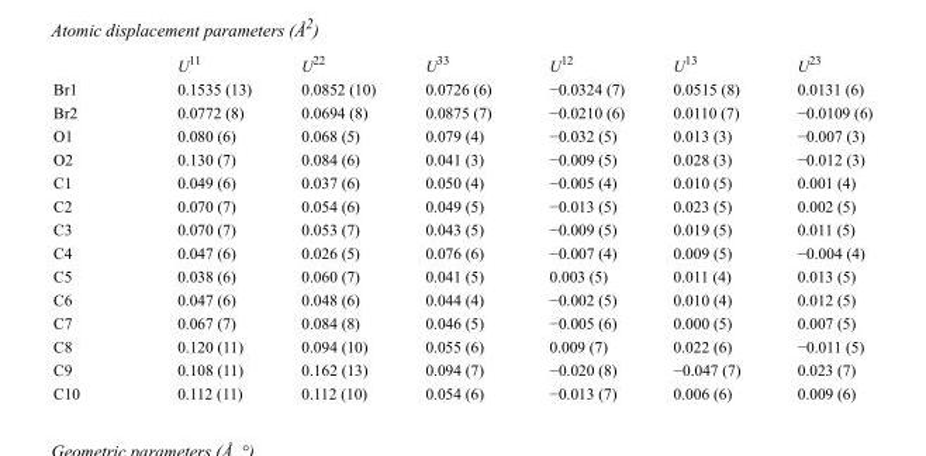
<table><thead><tr><td></td><td>U<sup>11</sup></td><td>U<sup>22</sup></td><td>U<sup>33</sup></td><td>U<sup>12</sup></td><td>U<sup>13</sup></td><td>U<sup>23</sup></td></tr></thead><tbody><tr><td>Br1</td><td>0.1535 (13)</td><td>0.0852 (10)</td><td>0.0726 (6)</td><td>−0.0324 (7)</td><td>0.0515 (8)</td><td>0.0131 (6)</td></tr><tr><td>Br2</td><td>0.0772 (8)</td><td>0.0694 (8)</td><td>0.0875 (7)</td><td>−0.0210 (6)</td><td>0.0110 (7)</td><td>−0.0109 (6)</td></tr><tr><td>O1</td><td>0.080 (6)</td><td>0.068 (5)</td><td>0.079 (4)</td><td>−0.032 (5)</td><td>0.013 (3)</td><td>−0.007 (3)</td></tr><tr><td>O2</td><td>0.130 (7)</td><td>0.084 (6)</td><td>0.041 (3)</td><td>−0.009 (5)</td><td>0.028 (3)</td><td>−0.012 (3)</td></tr><tr><td>C1</td><td>0.049 (6)</td><td>0.037 (6)</td><td>0.050 (4)</td><td>−0.005 (4)</td><td>0.010 (5)</td><td>0.001 (4)</td></tr><tr><td>C2</td><td>0.070 (7)</td><td>0.054 (6)</td><td>0.049 (5)</td><td>−0.013 (5)</td><td>0.023 (5)</td><td>0.002 (5)</td></tr><tr><td>C3</td><td>0.070 (7)</td><td>0.053 (7)</td><td>0.043 (5)</td><td>−0.009 (5)</td><td>0.019 (5)</td><td>0.011 (5)</td></tr><tr><td>C4</td><td>0.047 (6)</td><td>0.026 (5)</td><td>0.076 (6)</td><td>−0.007 (4)</td><td>0.009 (5)</td><td>−0.004 (4)</td></tr><tr><td>C5</td><td>0.038 (6)</td><td>0.060 (7)</td><td>0.041 (5)</td><td>0.003 (5)</td><td>0.011 (4)</td><td>0.013 (5)</td></tr><tr><td>C6</td><td>0.047 (6)</td><td>0.048 (6)</td><td>0.044 (4)</td><td>−0.002 (5)</td><td>0.010 (4)</td><td>0.012 (5)</td></tr><tr><td>C7</td><td>0.067 (7)</td><td>0.084 (8)</td><td>0.046 (5)</td><td>−0.005 (6)</td><td>0.000 (5)</td><td>0.007 (5)</td></tr><tr><td>C8</td><td>0.120 (11)</td><td>0.094 (10)</td><td>0.055 (6)</td><td>0.009 (7)</td><td>0.022 (6)</td><td>−0.011 (5)</td></tr><tr><td>C9</td><td>0.108 (11)</td><td>0.162 (13)</td><td>0.094 (7)</td><td>−0.020 (8)</td><td>−0.047 (7)</td><td>0.023 (7)</td></tr><tr><td>C10</td><td>0.112 (11)</td><td>0.112 (10)</td><td>0.054 (6)</td><td>−0.013 (7)</td><td>0.006 (6)</td><td>0.009 (6)</td></tr></tbody></table>